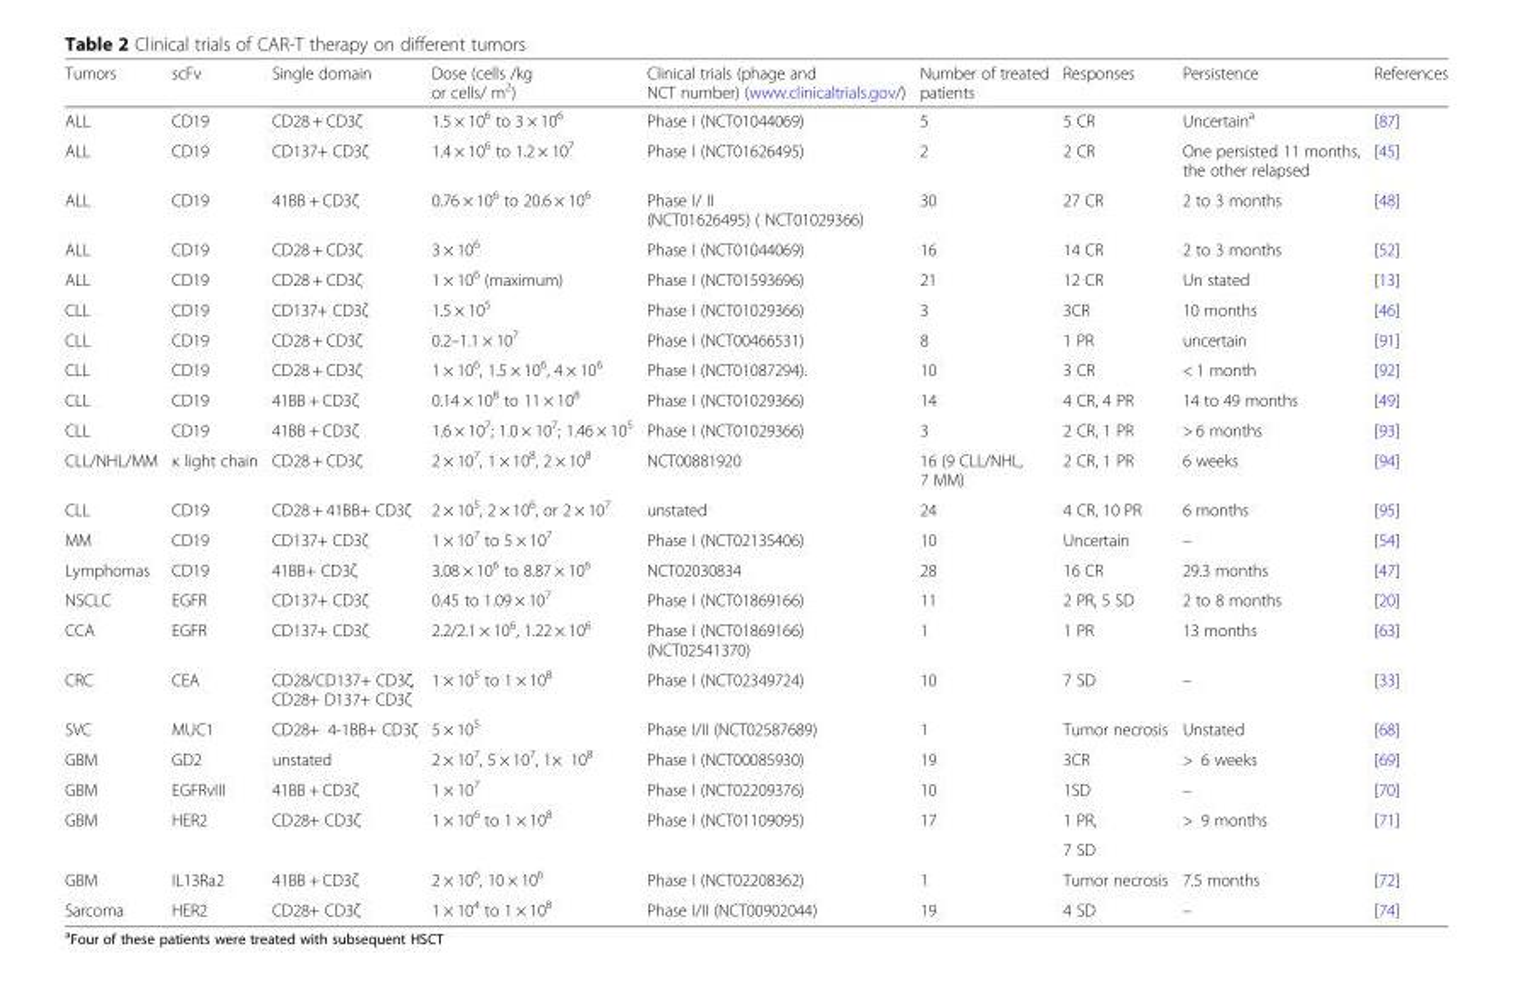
<table><thead><tr><td>Tumors</td><td>scFv</td><td>Single domain</td><td>Dose (cells /kg or cells/ m<sup>2</sup>)</td><td>Clinical trials (phage and NCT number) (www.clinicaltrials.gov/)</td><td>Number of treated patients</td><td>Responses</td><td>Persistence</td><td>References</td></tr></thead><tbody><tr><td>ALL</td><td>CD19</td><td>CD28 + CD3ζ</td><td>1.5 × 10<sup>6</sup> to 3 × 10<sup>6</sup></td><td>Phase I (NCT01044069)</td><td>5</td><td>5 CR</td><td>Uncertain<sup>a</sup></td><td>[87]</td></tr><tr><td>ALL</td><td>CD19</td><td>CD137+ CD3ζ</td><td>1.4 × 10<sup>6</sup> to 1.2 × 10<sup>7</sup></td><td>Phase I (NCT01626495)</td><td>2</td><td>2 CR</td><td>One persisted 11 months, the other relapsed</td><td>[45]</td></tr><tr><td>ALL</td><td>CD19</td><td>41BB + CD3ζ</td><td>0.76 × 10<sup>6</sup> to 20.6 × 10<sup>6</sup></td><td>Phase I/ ΙΙ (NCT01626495) ( NCT01029366)</td><td>30</td><td>27 CR</td><td>2 to 3 months</td><td>[48]</td></tr><tr><td>ALL</td><td>CD19</td><td>CD28 + CD3ζ</td><td>3 × 10<sup>6</sup></td><td>Phase I (NCT01044069)</td><td>16</td><td>14 CR</td><td>2 to 3 months</td><td>[52]</td></tr><tr><td>ALL</td><td>CD19</td><td>CD28 + CD3ζ</td><td>1 × 10<sup>6</sup> (maximum)</td><td>Phase I (NCT01593696)</td><td>21</td><td>12 CR</td><td>Un stated</td><td>[13]</td></tr><tr><td>CLL</td><td>CD19</td><td>CD137+ CD3ζ</td><td>1.5 × 10<sup>5</sup></td><td>Phase I (NCT01029366)</td><td>3</td><td>3CR</td><td>10 months</td><td>[46]</td></tr><tr><td>CLL</td><td>CD19</td><td>CD28 + CD3ζ</td><td>0.2–1.1 × 10<sup>7</sup></td><td>Phase I (NCT00466531)</td><td>8</td><td>1 PR</td><td>uncertain</td><td>[91]</td></tr><tr><td>CLL</td><td>CD19</td><td>CD28 + CD3ζ</td><td>1 × 10<sup>6</sup>, 1.5 × 10<sup>6</sup>, 4 × 10<sup>6</sup></td><td>Phase I (NCT01087294).</td><td>10</td><td>3 CR</td><td>&lt; 1 month</td><td>[92]</td></tr><tr><td>CLL</td><td>CD19</td><td>41BB + CD3ζ</td><td>0.14 × 10<sup>8</sup> to 11 × 10<sup>8</sup></td><td>Phase I (NCT01029366)</td><td>14</td><td>4 CR, 4 PR</td><td>14 to 49 months</td><td>[49]</td></tr><tr><td>CLL</td><td>CD19</td><td>41BB + CD3ζ</td><td>1.6 × 10<sup>7</sup>; 1.0 × 10<sup>7</sup>; 1.46 × 10<sup>5</sup></td><td>Phase I (NCT01029366)</td><td>3</td><td>2 CR, 1 PR</td><td>&gt; 6 months</td><td>[93]</td></tr><tr><td>CLL/NHL/MM</td><td>κ light chain</td><td>CD28 + CD3ζ</td><td>2 × 10<sup>7</sup>, 1 × 10<sup>8</sup>, 2 × 10<sup>8</sup></td><td>NCT00881920</td><td>16 (9 CLL/NHL, 7 MM)</td><td>2 CR, 1 PR</td><td>6 weeks</td><td>[94]</td></tr><tr><td>CLL</td><td>CD19</td><td>CD28 + 41BB+ CD3ζ</td><td>2 × 10<sup>5</sup>, 2 × 10<sup>6</sup>, or 2 × 10<sup>7</sup></td><td>unstated</td><td>24</td><td>4 CR, 10 PR</td><td>6 months</td><td>[95]</td></tr><tr><td>MM</td><td>CD19</td><td>CD137+ CD3ζ</td><td>1 × 10<sup>7</sup> to 5 × 10<sup>7</sup></td><td>Phase I (NCT02135406)</td><td>10</td><td>Uncertain</td><td>–</td><td>[54]</td></tr><tr><td>Lymphomas</td><td>CD19</td><td>41BB+ CD3ζ</td><td>3.08 × 10<sup>6</sup> to 8.87 × 10<sup>6</sup></td><td>NCT02030834</td><td>28</td><td>16 CR</td><td>29.3 months</td><td>[47]</td></tr><tr><td>NSCLC</td><td>EGFR</td><td>CD137+ CD3ζ</td><td>0.45 to 1.09 × 10<sup>7</sup></td><td>Phase I (NCT01869166)</td><td>11</td><td>2 PR, 5 SD</td><td>2 to 8 months</td><td>[20]</td></tr><tr><td>CCA</td><td>EGFR</td><td>CD137+ CD3ζ</td><td>2.2/2.1 × 10<sup>6</sup>, 1.22 × 10<sup>6</sup></td><td>Phase I (NCT01869166) (NCT02541370)</td><td>1</td><td>1 PR</td><td>13 months</td><td>[63]</td></tr><tr><td>CRC</td><td>CEA</td><td>CD28/CD137+ CD3ζ, CD28+ D137+ CD3ζ</td><td>1 × 10<sup>5</sup> to 1 × 10<sup>8</sup></td><td>Phase I (NCT02349724)</td><td>10</td><td>7 SD</td><td>–</td><td>[33]</td></tr><tr><td>SVC</td><td>MUC1</td><td>CD28+ 4-1BB+ CD3ζ</td><td>5 × 10<sup>5</sup></td><td>Phase I/II (NCT02587689)</td><td>1</td><td>Tumor necrosis</td><td>Unstated</td><td>[68]</td></tr><tr><td>GBM</td><td>GD2</td><td>unstated</td><td>2 × 10<sup>7</sup>, 5 × 10<sup>7</sup>, 1× 10<sup>8</sup></td><td>Phase I (NCT00085930)</td><td>19</td><td>3CR</td><td>&gt; 6 weeks</td><td>[69]</td></tr><tr><td>GBM</td><td>EGFRvIII</td><td>41BB + CD3ζ</td><td>1 × 10<sup>7</sup></td><td>Phase I (NCT02209376)</td><td>10</td><td>1SD</td><td>–</td><td>[70]</td></tr><tr><td rowspan="2">GBM</td><td rowspan="2">HER2</td><td rowspan="2">CD28+ CD3ζ</td><td rowspan="2">1 × 10<sup>6</sup> to 1 × 10<sup>8</sup></td><td rowspan="2">Phase I (NCT01109095)</td><td rowspan="2">17</td><td>1 PR,</td><td rowspan="2">&gt; 9 months</td><td rowspan="2">[71]</td></tr><tr><td>7 SD</td></tr><tr><td>GBM</td><td>IL13Ra2</td><td>41BB + CD3ζ</td><td>2 × 10<sup>6</sup>, 10 × 10<sup>6</sup></td><td>Phase I (NCT02208362)</td><td>1</td><td>Tumor necrosis</td><td>7.5 months</td><td>[72]</td></tr><tr><td>Sarcoma</td><td>HER2</td><td>CD28+ CD3ζ</td><td>1 × 10<sup>4</sup> to 1 × 10<sup>8</sup></td><td>Phase I/II (NCT00902044)</td><td>19</td><td>4 SD</td><td>–</td><td>[74]</td></tr></tbody></table>